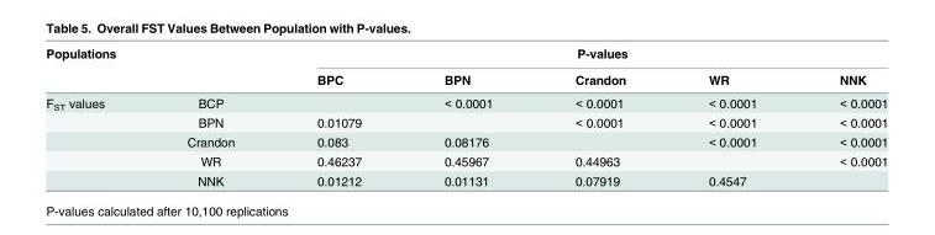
<table><thead><tr><td rowspan="2" colspan="2">Populations</td><td colspan="5">P-values</td></tr><tr><td rowspan="2">BPC</td><td rowspan="2">BPN &lt; 0.0001</td><td rowspan="2">Crandon &lt; 0.0001</td><td rowspan="2">WR &lt; 0.0001</td><td rowspan="2">NNK &lt; 0.0001</td></tr><tr><td>F<sub>ST</sub> values</td><td>BCP</td></tr></thead><tbody><tr><td></td><td>BPN</td><td>0.01079</td><td></td><td>&lt; 0.0001</td><td>&lt; 0.0001</td><td>&lt; 0.0001</td></tr><tr><td></td><td>Crandon</td><td>0.083</td><td>0.08176</td><td></td><td>&lt; 0.0001</td><td>&lt; 0.0001</td></tr><tr><td></td><td>WR</td><td>0.46237</td><td>0.45967</td><td>0.44963</td><td></td><td>&lt; 0.0001</td></tr><tr><td></td><td>NNK</td><td>0.01212</td><td>0.01131</td><td>0.07919</td><td>0.4547</td><td></td></tr></tbody></table>